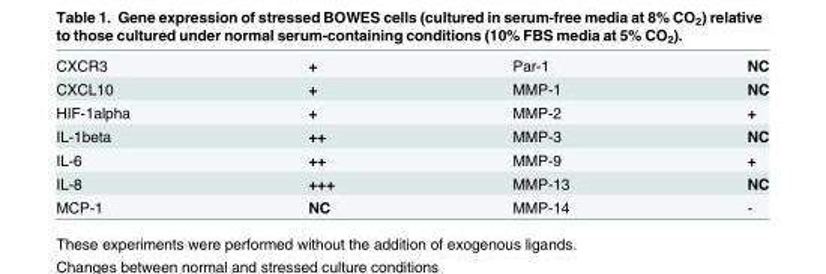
<table><tbody><tr><td>CXCR3</td><td>+</td><td>Par-1</td><td>NC</td></tr><tr><td>CXCL10</td><td>+</td><td>MMP-1</td><td>NC</td></tr><tr><td>HIF-1alpha</td><td>+</td><td>MMP-2</td><td>+</td></tr><tr><td>IL-1beta</td><td>++</td><td>MMP-3</td><td>NC</td></tr><tr><td>IL-6</td><td>++</td><td>MMP-9</td><td>+</td></tr><tr><td>IL-8</td><td>+++</td><td>MMP-13</td><td>NC</td></tr><tr><td>MCP-1</td><td>NC</td><td>MMP-14</td><td>-</td></tr></tbody></table>